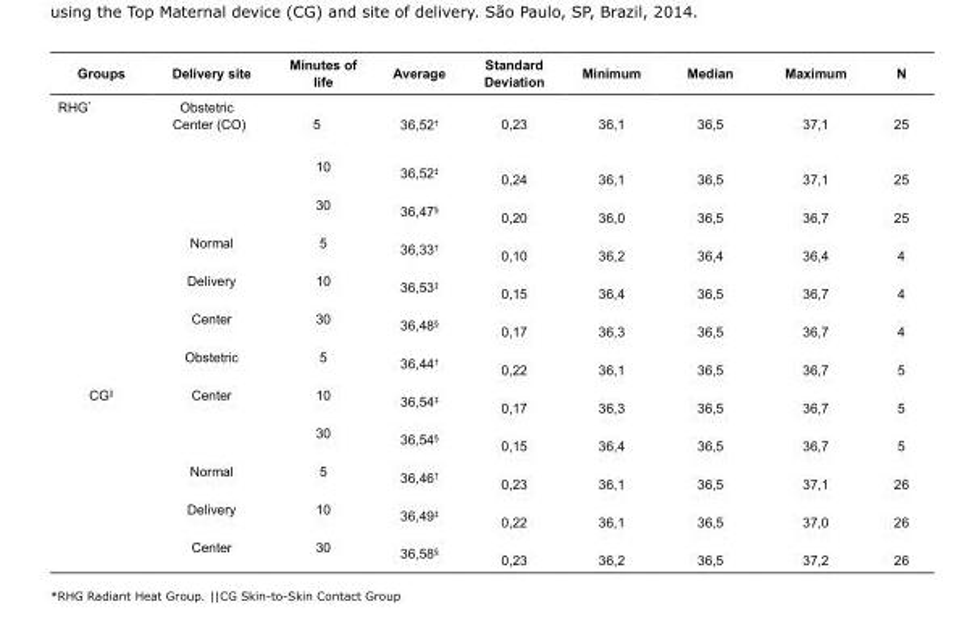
<table><tbody><tr><td>Groups</td><td>Delivery site</td><td>Minutes of life</td><td>Average</td><td>Standard Deviation</td><td>Minimum</td><td>Median</td><td>Maximum</td><td>N</td></tr><tr><td colspan="3">RHG* Obstetric Center (CO) 5</td><td>36,52<sup>†</sup></td><td>0,23</td><td>36,1</td><td>36,5</td><td>37,1</td><td>25</td></tr><tr><td></td><td></td><td>10</td><td>36,52<sup>‡</sup></td><td>0,24</td><td>36,1</td><td>36,5</td><td>37,1</td><td>25</td></tr><tr><td></td><td></td><td>30</td><td>36,47<sup>§</sup></td><td>0,20</td><td>36,0</td><td>36,5</td><td>36,7</td><td>25</td></tr><tr><td></td><td>Normal</td><td>5</td><td>36,33<sup>†</sup></td><td>0,10</td><td>36,2</td><td>36,4</td><td>36,4</td><td>4</td></tr><tr><td></td><td>Delivery</td><td>10</td><td>36,53<sup>‡</sup></td><td>0,15</td><td>36,4</td><td>36,5</td><td>36,7</td><td>4</td></tr><tr><td></td><td>Center</td><td>30</td><td>36,48<sup>§</sup></td><td>0,17</td><td>36,3</td><td>36,5</td><td>36,7</td><td>4</td></tr><tr><td></td><td>Obstetric</td><td>5</td><td>36,44<sup>†</sup></td><td>0,22</td><td>36,1</td><td>36,5</td><td>36,7</td><td>5</td></tr><tr><td rowspan="5">CG<sup>||</sup></td><td>Center</td><td>10</td><td>36,54<sup>‡</sup></td><td>0,17</td><td>36,3</td><td>36,5</td><td>36,7</td><td>5</td></tr><tr><td></td><td>30</td><td>36,54<sup>§</sup></td><td>0,15</td><td>36,4</td><td>36,5</td><td>36,7</td><td>5</td></tr><tr><td>Normal</td><td>5</td><td>36,46<sup>†</sup></td><td>0,23</td><td>36,1</td><td>36,5</td><td>37,1</td><td>26</td></tr><tr><td>Delivery</td><td>10</td><td>36,49<sup>‡</sup></td><td>0,22</td><td>36,1</td><td>36,5</td><td>37,0</td><td>26</td></tr><tr><td>Center</td><td>30</td><td>36,58<sup>§</sup></td><td>0,23</td><td>36,2</td><td>36,5</td><td>37,2</td><td>26</td></tr></tbody></table>